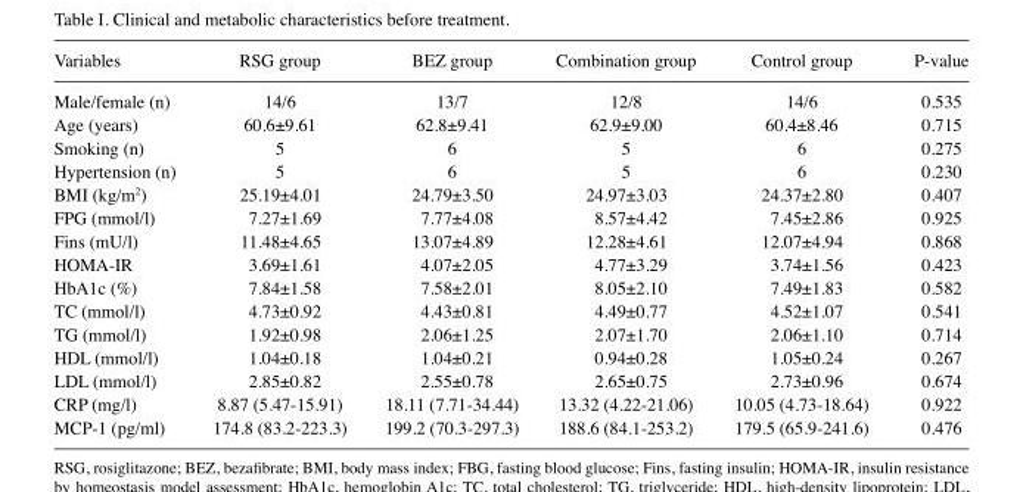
<table><thead><tr><td>Variables</td><td>RSG group</td><td>BEZ group</td><td>Combination group</td><td>Control group</td><td>P-value</td></tr></thead><tbody><tr><td>Male/female (n)</td><td>14/6</td><td>13/7</td><td>12/8</td><td>14/6</td><td>0.535</td></tr><tr><td>Age (years)</td><td>60.6±9.61</td><td>62.8±9.41</td><td>62.9±9.00</td><td>60.4±8.46</td><td>0.715</td></tr><tr><td>Smoking (n)</td><td>5</td><td>6</td><td>5</td><td>6</td><td>0.275</td></tr><tr><td>Hypertension (n)</td><td>5</td><td>6</td><td>5</td><td>6</td><td>0.230</td></tr><tr><td>BMI (kg/m<sup>2</sup>)</td><td>25.19±4.01</td><td>24.79±3.50</td><td>24.97±3.03</td><td>24.37±2.80</td><td>0.407</td></tr><tr><td>FPG (mmol/l)</td><td>7.27±1.69</td><td>7.77±4.08</td><td>8.57±4.42</td><td>7.45±2.86</td><td>0.925</td></tr><tr><td>Fins (mU/l)</td><td>11.48±4.65</td><td>13.07±4.89</td><td>12.28±4.61</td><td>12.07±4.94</td><td>0.868</td></tr><tr><td>HOMA-IR</td><td>3.69±1.61</td><td>4.07±2.05</td><td>4.77±3.29</td><td>3.74±1.56</td><td>0.423</td></tr><tr><td>HbA1c (%)</td><td>7.84±1.58</td><td>7.58±2.01</td><td>8.05±2.10</td><td>7.49±1.83</td><td>0.582</td></tr><tr><td>TC (mmol/l)</td><td>4.73±0.92</td><td>4.43±0.81</td><td>4.49±0.77</td><td>4.52±1.07</td><td>0.541</td></tr><tr><td>TG (mmol/l)</td><td>1.92±0.98</td><td>2.06±1.25</td><td>2.07±1.70</td><td>2.06±1.10</td><td>0.714</td></tr><tr><td>HDL (mmol/l)</td><td>1.04±0.18</td><td>1.04±0.21</td><td>0.94±0.28</td><td>1.05±0.24</td><td>0.267</td></tr><tr><td>LDL (mmol/l)</td><td>2.85±0.82</td><td>2.55±0.78</td><td>2.65±0.75</td><td>2.73±0.96</td><td>0.674</td></tr><tr><td>CRP (mg/l)</td><td>8.87 (5.47-15.91)</td><td>18.11 (7.71-34.44)</td><td>13.32 (4.22-21.06)</td><td>10.05 (4.73-18.64)</td><td>0.922</td></tr><tr><td>MCP-1 (pg/ml)</td><td>174.8 (83.2-223.3)</td><td>199.2 (70.3-297.3)</td><td>188.6 (84.1-253.2)</td><td>179.5 (65.9-241.6)</td><td>0.476</td></tr></tbody></table>